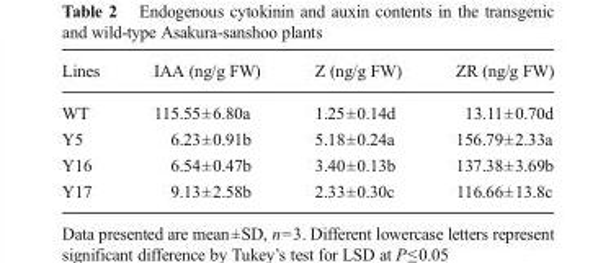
<table><thead><tr><td>Lines</td><td>IAA (ng/g FW)</td><td>Z (ng/g FW)</td><td>ZR (ng/g FW)</td></tr></thead><tbody><tr><td>WT</td><td>115.55±6.80a</td><td>1.25±0.14d</td><td>13.11±0.70d</td></tr><tr><td>Y5</td><td>6.23±0.91b</td><td>5.18±0.24a</td><td>156.79±2.33a</td></tr><tr><td>Y16</td><td>6.54±0.47b</td><td>3.40±0.13b</td><td>137.38±3.69b</td></tr><tr><td>Y17</td><td>9.13±2.58b</td><td>2.33±0.30c</td><td>116.66±13.8c</td></tr></tbody></table>